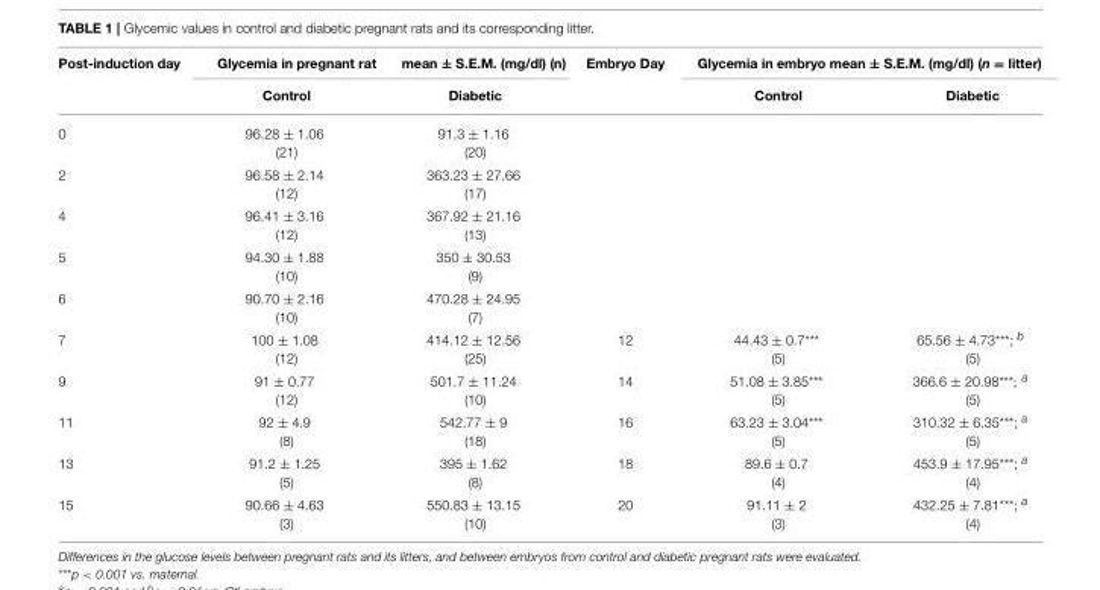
<table><thead><tr><td rowspan="2">Post-induction day</td><td colspan="2">Glycemia in pregnant rat mean ± S.E.M. (mg/dl) (n)</td><td rowspan="2">Embryo Day</td><td colspan="2">Glycemia in embryo mean ± S.E.M. (mg/dl) (n = litter)</td></tr><tr><td>Control</td><td>Diabetic</td><td>Control</td><td>Diabetic</td></tr></thead><tbody><tr><td>0</td><td>96.28 ± 1.06 (21)</td><td>91.3 ± 1.16 (20)</td><td></td><td></td><td></td></tr><tr><td>2</td><td>96.58 ± 2.14 (12)</td><td>363.23 ± 27.66 (17)</td><td></td><td></td><td></td></tr><tr><td>4</td><td>96.41 ± 3.16 (12)</td><td>367.92 ± 21.16 (13)</td><td></td><td></td><td></td></tr><tr><td>5</td><td>94.30 ± 1.88 (10)</td><td>350 ± 30.53 (9)</td><td></td><td></td><td></td></tr><tr><td>6</td><td>90.70 ± 2.16 (10)</td><td>470.28 ± 24.95 (7)</td><td></td><td></td><td></td></tr><tr><td>7</td><td>100 ± 1.08 (12)</td><td>414.12 ± 12.56 (25)</td><td>12</td><td>44.43 ± 0.7*** (5)</td><td>65.56 ± 4.73***; <sup>b</sup> (5)</td></tr><tr><td>9</td><td>91 ± 0.77 (12)</td><td>501.7 ± 11.24 (10)</td><td>14</td><td>51.08 ± 3.85*** (5)</td><td>366.6 ± 20.98***; <sup>a</sup> (5)</td></tr><tr><td>11</td><td>92 ± 4.9 (8)</td><td>542.77 ± 9 (18)</td><td>16</td><td>63.23 ± 3.04*** (5)</td><td>310.32 ± 6.35***; <sup>a</sup> (5)</td></tr><tr><td>13</td><td>91.2 ± 1.25 (5)</td><td>395 ± 1.62 (8)</td><td>18</td><td>89.6 ± 0.7 (4)</td><td>453.9 ± 17.95***; <sup>a</sup> (4)</td></tr><tr><td>15</td><td>90.66 ± 4.63 (3)</td><td>550.83 ± 13.15 (10)</td><td>20</td><td>91.11 ± 2 (3)</td><td>432.25 ± 7.81***; <sup>a</sup> (4)</td></tr></tbody></table>